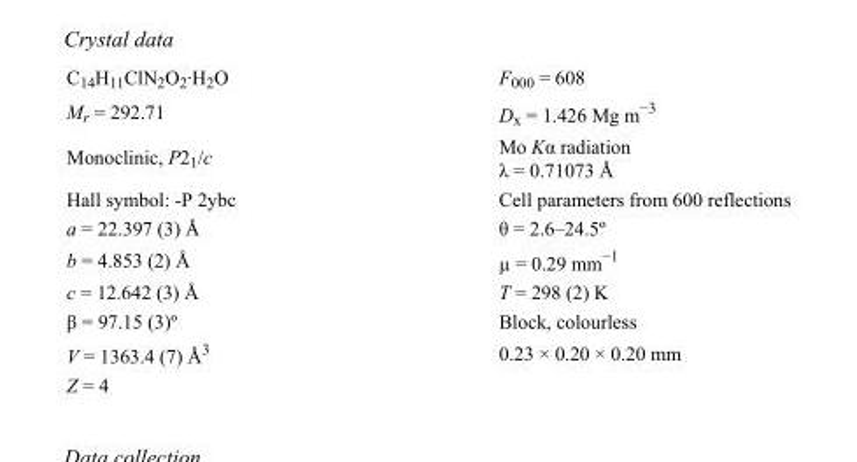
<table><tbody><tr><td>C<sub>14</sub>H<sub>11</sub>ClN<sub>2</sub>O<sub>2</sub>·H<sub>2</sub>O</td><td>F<sub>000</sub> = 608</td></tr><tr><td>M<sub>r</sub> = 292.71</td><td>D<sub>x</sub> = 1.426 Mg m<sup>−3</sup></td></tr><tr><td>Monoclinic, P2<sub>1</sub>/c</td><td>Mo Kα radiation λ = 0.71073 Å</td></tr><tr><td>Hall symbol: -P 2ybc</td><td>Cell parameters from 600 reflections</td></tr><tr><td>a = 22.397 (3) Å</td><td>θ = 2.6–24.5º</td></tr><tr><td>b = 4.853 (2) Å</td><td>µ = 0.29 mm<sup>−1</sup></td></tr><tr><td>c = 12.642 (3) Å</td><td>T = 298 (2) K</td></tr><tr><td>β = 97.15 (3)º</td><td>Block, colourless</td></tr><tr><td>V = 1363.4 (7) Å<sup>3</sup></td><td>0.23 × 0.20 × 0.20 mm</td></tr><tr><td>Z = 4</td><td></td></tr></tbody></table>